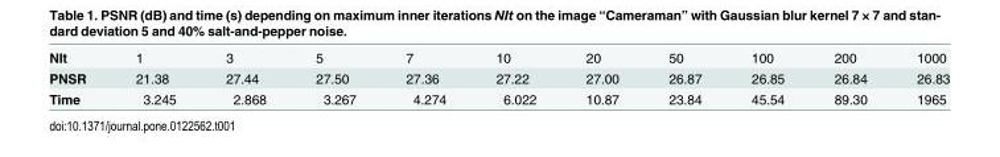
<table><tbody><tr><td>NIt</td><td>1</td><td>3</td><td>5</td><td>7</td><td>10</td><td>20</td><td>50</td><td>100</td><td>200</td><td>1000</td></tr><tr><td>PNSR</td><td>21.38</td><td>27.44</td><td>27.50</td><td>27.36</td><td>27.22</td><td>27.00</td><td>26.87</td><td>26.85</td><td>26.84</td><td>26.83</td></tr><tr><td>Time</td><td>3.245</td><td>2.868</td><td>3.267</td><td>4.274</td><td>6.022</td><td>10.87</td><td>23.84</td><td>45.54</td><td>89.30</td><td>1965</td></tr></tbody></table>